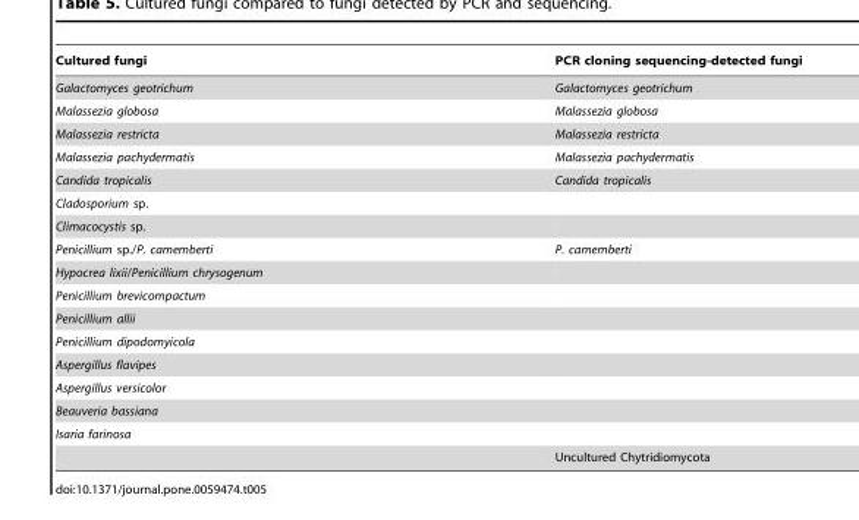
<table><thead><tr><td>Cultured fungi</td><td>PCR cloning sequencing-detected fungi</td></tr></thead><tbody><tr><td>Galactomyces geotrichum</td><td>Galactomyces geotrichum</td></tr><tr><td>Malassezia globosa</td><td>Malassezia globosa</td></tr><tr><td>Malassezia restricta</td><td>Malassezia restricta</td></tr><tr><td>Malassezia pachydermatis</td><td>Malassezia pachydermatis</td></tr><tr><td>Candida tropicalis</td><td>Candida tropicalis</td></tr><tr><td colspan="2">Cladosporium sp.</td></tr><tr><td colspan="2">Climacocystis sp.</td></tr><tr><td>Penicillium sp./P. camemberti</td><td>P. camemberti</td></tr><tr><td colspan="2">Hypocrea lixii/Penicillium chrysogenum</td></tr><tr><td colspan="2">Penicillium brevicompactum</td></tr><tr><td colspan="2">Penicillium allii</td></tr><tr><td colspan="2">Penicillium dipodomyicola</td></tr><tr><td colspan="2">Aspergillus flavipes</td></tr><tr><td colspan="2">Aspergillus versicolor</td></tr><tr><td colspan="2">Beauveria bassiana</td></tr><tr><td colspan="2">Isaria farinosa</td></tr><tr><td></td><td>Uncultured Chytridiomycota</td></tr></tbody></table>